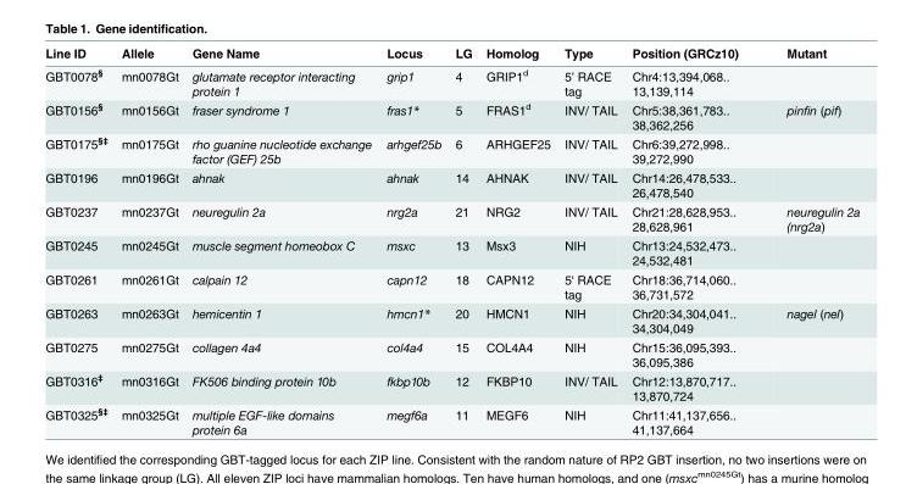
<table><thead><tr><td>Line ID</td><td>Allele</td><td>Gene Name</td><td>Locus</td><td>LG</td><td>Homolog</td><td>Type</td><td>Position (GRCz10)</td><td>Mutant</td></tr></thead><tbody><tr><td>GBT0078<sup>§</sup></td><td>mn0078Gt</td><td>glutamate receptor interacting protein 1</td><td>grip1</td><td>4</td><td>GRIP1<sup>d</sup></td><td>5’ RACE tag</td><td>Chr4:13,394,068.. 13,139,114</td><td></td></tr><tr><td>GBT0156<sup>§</sup></td><td>mn0156Gt</td><td>fraser syndrome 1</td><td>fras1*</td><td>5</td><td>FRAS1<sup>d</sup></td><td>INV/ TAIL</td><td>Chr5:38,361,783.. 38,362,256</td><td>pinfin (pif)</td></tr><tr><td>GBT0175<sup>§‡</sup></td><td>mn0175Gt</td><td>rho guanine nucleotide exchange factor (GEF) 25b</td><td>arhgef25b</td><td>6</td><td>ARHGEF25</td><td>INV/ TAIL</td><td>Chr6:39,272,998.. 39,272,990</td><td></td></tr><tr><td>GBT0196</td><td>mn0196Gt</td><td>ahnak</td><td>ahnak</td><td>14</td><td>AHNAK</td><td>INV/ TAIL</td><td>Chr14:26,478,533.. 26,478,540</td><td></td></tr><tr><td>GBT0237</td><td>mn0237Gt</td><td>neuregulin 2a</td><td>nrg2a</td><td>21</td><td>NRG2</td><td>INV/ TAIL</td><td>Chr21:28,628,953.. 28,628,961</td><td>neuregulin 2a (nrg2a)</td></tr><tr><td>GBT0245</td><td>mn0245Gt</td><td>muscle segment homeobox C</td><td>msxc</td><td>13</td><td>Msx3</td><td>NIH</td><td>Chr13:24,532,473.. 24,532,481</td><td></td></tr><tr><td>GBT0261</td><td>mn0261Gt</td><td>calpain 12</td><td>capn12</td><td>18</td><td>CAPN12</td><td>5&#x27; RACE tag</td><td>Chr18:36,714,060.. 36,731,572</td><td></td></tr><tr><td>GBT0263</td><td>mn0263Gt</td><td>hemicentin 1</td><td>hmcn1*</td><td>20</td><td>HMCN1</td><td>NIH</td><td>Chr20:34,304,041.. 34,304,049</td><td>nagel (nel)</td></tr><tr><td>GBT0275</td><td>mn0275Gt</td><td>collagen 4a4</td><td>col4a4</td><td>15</td><td>COL4A4</td><td>NIH</td><td>Chr15:36,095,393.. 36,095,386</td><td></td></tr><tr><td>GBT0316<sup>‡</sup></td><td>mn0316Gt</td><td>FK506 binding protein 10b</td><td>fkbp10b</td><td>12</td><td>FKBP10</td><td>INV/ TAIL</td><td>Chr12:13,870,717.. 13,870,724</td><td></td></tr><tr><td>GBT0325<sup>§‡</sup></td><td>mn0325Gt</td><td>multiple EGF-like domains protein 6a</td><td>megf6a</td><td>11</td><td>MEGF6</td><td>NIH</td><td>Chr11:41,137,656.. 41,137,664</td><td></td></tr></tbody></table>